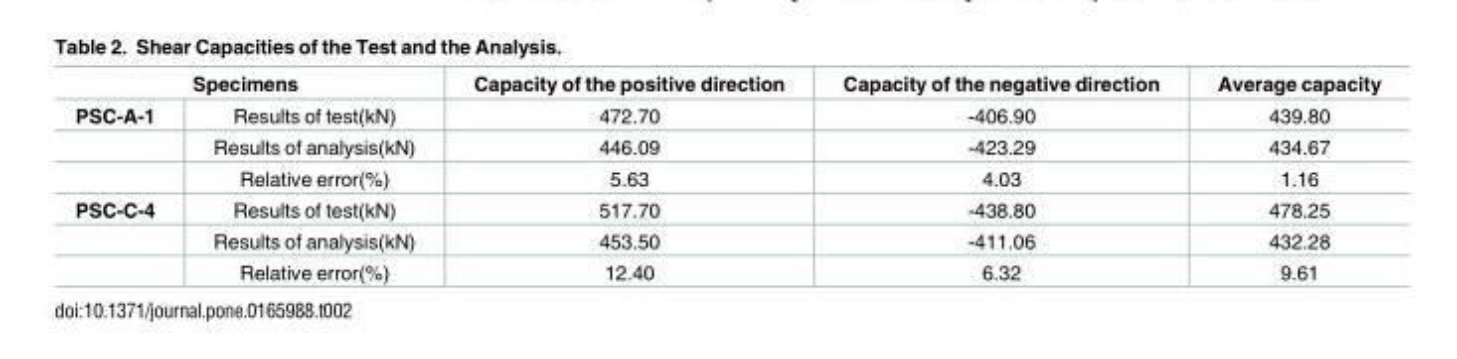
<table><thead><tr><td colspan="2">Specimens</td><td rowspan="2">Capacity of the positive direction 472.70</td><td rowspan="2">Capacity of the negative direction -406.90</td><td rowspan="2">Average capacity 439.80</td></tr><tr><td>PSC-A-1</td><td>Results of test(kN)</td></tr></thead><tbody><tr><td></td><td>Results of analysis(kN)</td><td>446.09</td><td>-423.29</td><td>434.67</td></tr><tr><td></td><td>Relative error(%)</td><td>5.63</td><td>4.03</td><td>1.16</td></tr><tr><td rowspan="3">PSC-C-4</td><td>Results of test(kN)</td><td>517.70</td><td>-438.80</td><td>478.25</td></tr><tr><td>Results of analysis(kN)</td><td>453.50</td><td>-411.06</td><td>432.28</td></tr><tr><td>Relative error(%)</td><td>12.40</td><td>6.32</td><td>9.61</td></tr></tbody></table>